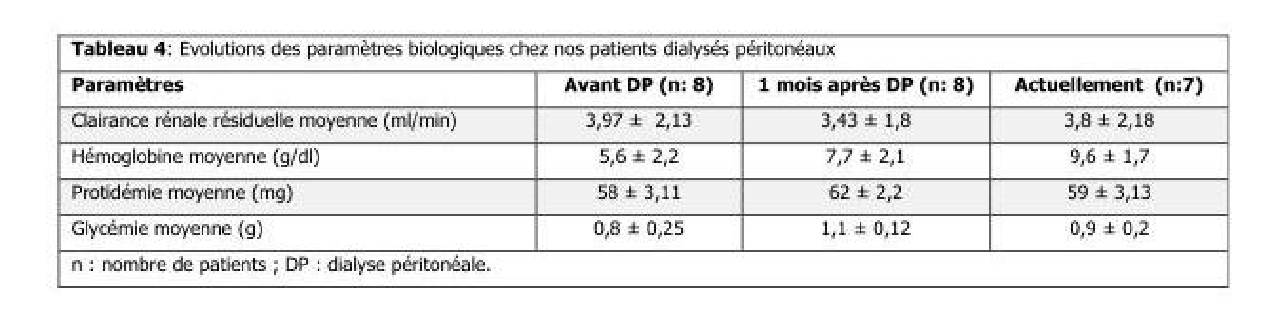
<table><thead><tr><td>Paramètres</td><td>Avant DP (n: 8)</td><td>1 mois après DP (n: 8)</td><td>Actuellement (n:7)</td></tr></thead><tbody><tr><td>Clairance rénale résiduelle moyenne (ml/min)</td><td>3,97 ± 2,13</td><td>3,43 ± 1,8</td><td>3,8 ± 2,18</td></tr><tr><td>Hémoglobine moyenne (g/dl)</td><td>5,6 ± 2,2</td><td>7,7 ± 2,1</td><td>9,6 ± 1,7</td></tr><tr><td>Protidémie moyenne (mg)</td><td>58 ± 3,11</td><td>62 ± 2,2</td><td>59 ± 3,13</td></tr><tr><td>Glycémie moyenne (g)</td><td>0,8 ± 0,25</td><td>1,1 ± 0,12</td><td>0,9 ± 0,2</td></tr></tbody></table>